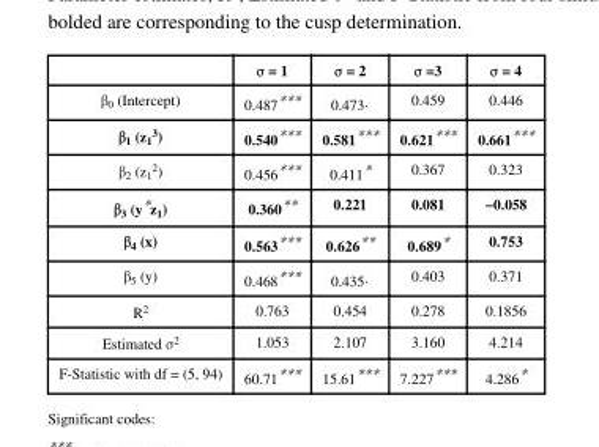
<table><thead><tr><td></td><td>σ = 1</td><td>σ = 2</td><td>σ =3</td><td>σ = 4</td></tr></thead><tbody><tr><td>β<sub>0</sub> (Intercept)</td><td>0.487***</td><td>0.473․</td><td>0.459</td><td>0.446</td></tr><tr><td>β<sub>1</sub> (z<sub>1</sub><sup>3</sup>)</td><td>0.540***</td><td>0.581***</td><td>0.621***</td><td>0.661***</td></tr><tr><td>β<sub>2</sub> (z<sub>1</sub><sup>2</sup>)</td><td>0.456***</td><td>0.411*</td><td>0.367</td><td>0.323</td></tr><tr><td>β<sub>3</sub> (y*z<sub>1</sub>)</td><td>0.360**</td><td>0.221</td><td>0.081</td><td>−0.058</td></tr><tr><td>β<sub>4</sub> (x)</td><td>0.563***</td><td>0.626**</td><td>0.689*</td><td>0.753</td></tr><tr><td>β<sub>5</sub> (y)</td><td>0.468***</td><td>0.435․</td><td>0.403</td><td>0.371</td></tr><tr><td>R<sup>2</sup></td><td>0.763</td><td>0.454</td><td>0.278</td><td>0.1856</td></tr><tr><td>Estimated σ<sup>2</sup></td><td>1.053</td><td>2.107</td><td>3.160</td><td>4.214</td></tr><tr><td>F-Statistic with df = (5, 94)</td><td>60.71***</td><td>15.61***</td><td>7.227***</td><td>4.286*</td></tr></tbody></table>